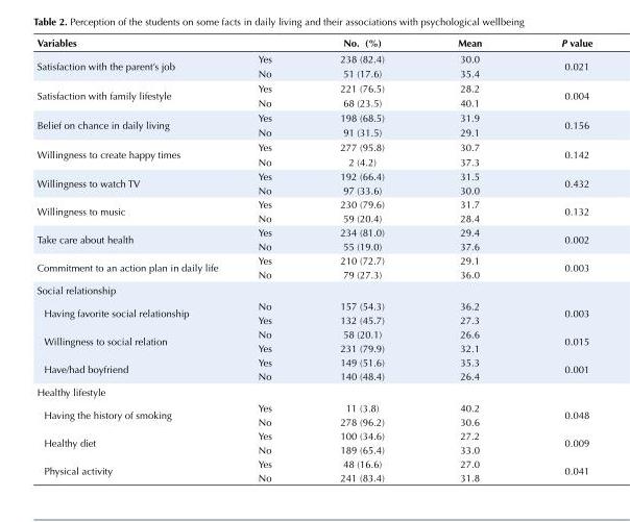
<table><tbody><tr><td>Variables</td><td></td><td>No. (%)</td><td>Mean</td><td>P value</td></tr><tr><td rowspan="2">Satisfaction with the parent’s job</td><td>Yes</td><td>238 (82.4)</td><td>30.0</td><td rowspan="2">0.021</td></tr><tr><td>No</td><td>51 (17.6)</td><td>35.4</td></tr><tr><td rowspan="2">Satisfaction with family lifestyle</td><td>Yes</td><td>221 (76.5)</td><td>28.2</td><td rowspan="2">0.004</td></tr><tr><td>No</td><td>68 (23.5)</td><td>40.1</td></tr><tr><td rowspan="2">Belief on chance in daily living</td><td>Yes</td><td>198 (68.5)</td><td>31.9</td><td rowspan="2">0.156</td></tr><tr><td>No</td><td>91 (31.5)</td><td>29.1</td></tr><tr><td rowspan="2">Willingness to create happy times</td><td>Yes</td><td>277 (95.8)</td><td>30.7</td><td rowspan="2">0.142</td></tr><tr><td>No</td><td>2 (4.2)</td><td>37.3</td></tr><tr><td rowspan="2">Willingness to watch TV</td><td>Yes</td><td>192 (66.4)</td><td>31.5</td><td rowspan="2">0.432</td></tr><tr><td>No</td><td>97 (33.6)</td><td>30.0</td></tr><tr><td rowspan="2">Willingness to music</td><td>Yes</td><td>230 (79.6)</td><td>31.7</td><td rowspan="2">0.132</td></tr><tr><td>No</td><td>59 (20.4)</td><td>28.4</td></tr><tr><td rowspan="2">Take care about health</td><td>Yes</td><td>234 (81.0)</td><td>29.4</td><td rowspan="2">0.002</td></tr><tr><td>No</td><td>55 (19.0)</td><td>37.6</td></tr><tr><td rowspan="2">Commitment to an action plan in daily life</td><td>Yes</td><td>210 (72.7)</td><td>29.1</td><td rowspan="2">0.003</td></tr><tr><td>No</td><td>79 (27.3)</td><td>36.0</td></tr><tr><td colspan="5">Social relationship</td></tr><tr><td rowspan="2">Having favorite social relationship</td><td>No</td><td>157 (54.3)</td><td>36.2</td><td rowspan="2">0.003</td></tr><tr><td>Yes</td><td>132 (45.7)</td><td>27.3</td></tr><tr><td rowspan="2">Willingness to social relation</td><td>No</td><td>58 (20.1)</td><td>26.6</td><td rowspan="2">0.015</td></tr><tr><td>Yes</td><td>231 (79.9)</td><td>32.1</td></tr><tr><td rowspan="2">Have/had boyfriend</td><td>Yes</td><td>149 (51.6)</td><td>35.3</td><td rowspan="2">0.001</td></tr><tr><td>No</td><td>140 (48.4)</td><td>26.4</td></tr><tr><td colspan="5">Healthy lifestyle</td></tr><tr><td rowspan="2">Having the history of smoking</td><td>Yes</td><td>11 (3.8)</td><td>40.2</td><td rowspan="2">0.048</td></tr><tr><td>No</td><td>278 (96.2)</td><td>30.6</td></tr><tr><td rowspan="2">Healthy diet</td><td>Yes</td><td>100 (34.6)</td><td>27.2</td><td rowspan="2">0.009</td></tr><tr><td>No</td><td>189 (65.4)</td><td>33.0</td></tr><tr><td rowspan="2">Physical activity</td><td>Yes</td><td>48 (16.6)</td><td>27.0</td><td rowspan="2">0.041</td></tr><tr><td>No</td><td>241 (83.4)</td><td>31.8</td></tr></tbody></table>